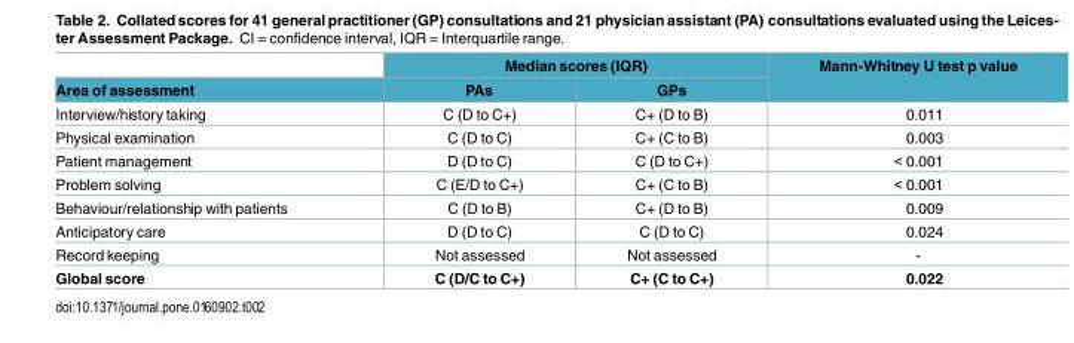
<table><thead><tr><td rowspan="2">Area of assessment</td><td colspan="2">Median scores (IQR)</td><td rowspan="2">Mann-Whitney U test p value</td></tr><tr><td>PAs</td><td>GPs</td></tr></thead><tbody><tr><td>Interview/history taking</td><td>C (D to C+)</td><td>C+ (D to B)</td><td>0.011</td></tr><tr><td>Physical examination</td><td>C (D to C)</td><td>C+ (C to B)</td><td>0.003</td></tr><tr><td>Patient management</td><td>D (D to C)</td><td>C (D to C+)</td><td>&lt; 0.001</td></tr><tr><td>Problem solving</td><td>C (E/D to C+)</td><td>C+ (C to B)</td><td>&lt; 0.001</td></tr><tr><td>Behaviour/relationship with patients</td><td>C (D to B)</td><td>C+ (D to B)</td><td>0.009</td></tr><tr><td>Anticipatory care</td><td>D (D to C)</td><td>C (D to C)</td><td>0.024</td></tr><tr><td>Record keeping</td><td>Not assessed</td><td>Not assessed</td><td>-</td></tr><tr><td>Global score</td><td>C (D/C to C+)</td><td>C+ (C to C+)</td><td>0.022</td></tr></tbody></table>